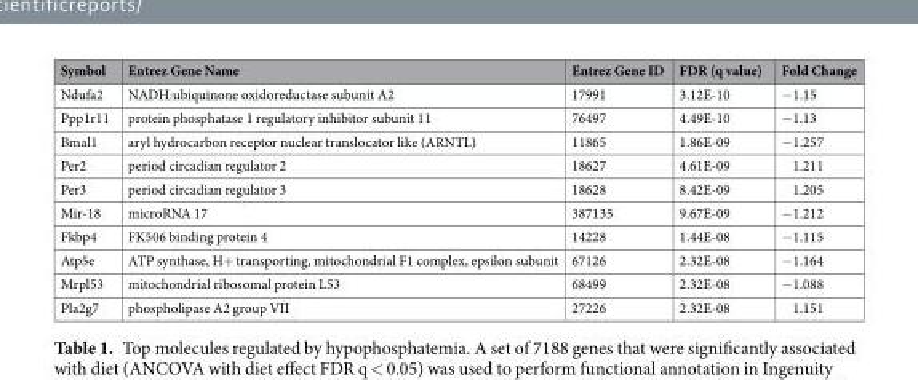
<table><thead><tr><td>Symbol</td><td>Entrez Gene Name</td><td>Entrez Gene ID</td><td>FDR (q value)</td><td>Fold Change</td></tr></thead><tbody><tr><td>Ndufa2</td><td>NADH:ubiquinone oxidoreductase subunit A2</td><td>17991</td><td>3.12E-10</td><td>−1.15</td></tr><tr><td>Ppp1r11</td><td>protein phosphatase 1 regulatory inhibitor subunit 11</td><td>76497</td><td>4.49E-10</td><td>−1.13</td></tr><tr><td>Bmal1</td><td>aryl hydrocarbon receptor nuclear translocator like (ARNTL)</td><td>11865</td><td>1.86E-09</td><td>−1.257</td></tr><tr><td>Per2</td><td>period circadian regulator 2</td><td>18627</td><td>4.61E-09</td><td>1.211</td></tr><tr><td>Per3</td><td>period circadian regulator 3</td><td>18628</td><td>8.42E-09</td><td>1.205</td></tr><tr><td>Mir-18</td><td>microRNA 17</td><td>387135</td><td>9.67E-09</td><td>−1.212</td></tr><tr><td>Fkbp4</td><td>FK506 binding protein 4</td><td>14228</td><td>1.44E-08</td><td>−1.115</td></tr><tr><td>Atp5e</td><td>ATP synthase, H+ transporting, mitochondrial F1 complex, epsilon subunit</td><td>67126</td><td>2.32E-08</td><td>−1.164</td></tr><tr><td>Mrpl53</td><td>mitochondrial ribosomal protein L53</td><td>68499</td><td>2.32E-08</td><td>−1.088</td></tr><tr><td>Pla2g7</td><td>phospholipase A2 group VII</td><td>27226</td><td>2.32E-08</td><td>1.151</td></tr></tbody></table>